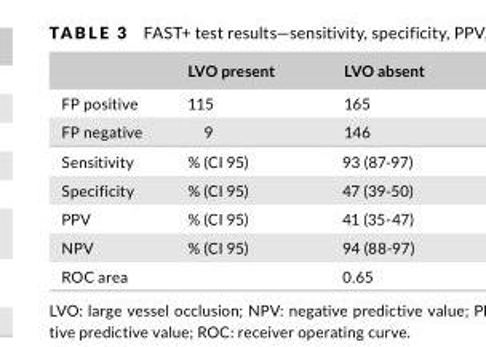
<table><thead><tr><td></td><td>LVO present</td><td>LVO absent</td></tr></thead><tbody><tr><td>FP positive</td><td>115</td><td>165</td></tr><tr><td>FP negative</td><td>9</td><td>146</td></tr><tr><td>Sensitivity</td><td>% (CI 95)</td><td>93 (87- 97)</td></tr><tr><td>Specificity</td><td>% (CI 95)</td><td>47 (39- 50)</td></tr><tr><td>PPV</td><td>% (CI 95)</td><td>41 (35- 47)</td></tr><tr><td>NPV</td><td>% (CI 95)</td><td>94 (88- 97)</td></tr><tr><td>ROC area</td><td></td><td>0.65</td></tr></tbody></table>